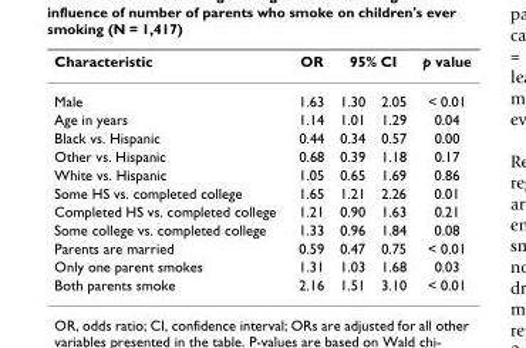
<table><thead><tr><td rowspan="2">Characteristic Male</td><td rowspan="2">OR 1.63</td><td colspan="2">95% CI</td><td rowspan="2">p value &lt; 0.01</td></tr><tr><td>1.30</td><td>2.05</td></tr></thead><tbody><tr><td>Age in years</td><td>1.14</td><td>1.01</td><td>1.29</td><td>0.04</td></tr><tr><td>Black vs. Hispanic</td><td>0.44</td><td>0.34</td><td>0.57</td><td>0.00</td></tr><tr><td>Other vs. Hispanic</td><td>0.68</td><td>0.39</td><td>1.18</td><td>0.17</td></tr><tr><td>White vs. Hispanic</td><td>1.05</td><td>0.65</td><td>1.69</td><td>0.86</td></tr><tr><td>Some HS vs. completed college</td><td>1.65</td><td>1.21</td><td>2.26</td><td>0.01</td></tr><tr><td>Completed HS vs. completed college</td><td>1.21</td><td>0.90</td><td>1.63</td><td>0.21</td></tr><tr><td>Some college vs. completed college</td><td>1.33</td><td>0.96</td><td>1.84</td><td>0.08</td></tr><tr><td>Parents are married</td><td>0.59</td><td>0.47</td><td>0.75</td><td>&lt; 0.01</td></tr><tr><td>Only one parent smokes</td><td>1.31</td><td>1.03</td><td>1.68</td><td>0.03</td></tr><tr><td>Both parents smoke</td><td>2.16</td><td>1.51</td><td>3.10</td><td>&lt; 0.01</td></tr></tbody></table>